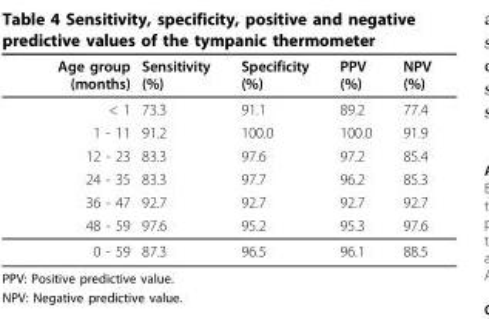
<table><thead><tr><td>Age group (months)</td><td>Sensitivity (%)</td><td>Specificity (%)</td><td>PPV (%)</td><td>NPV (%)</td></tr></thead><tbody><tr><td>&lt; 1</td><td>73.3</td><td>91.1</td><td>89.2</td><td>77.4</td></tr><tr><td>1 - 11</td><td>91.2</td><td>100.0</td><td>100.0</td><td>91.9</td></tr><tr><td>12 - 23</td><td>83.3</td><td>97.6</td><td>97.2</td><td>85.4</td></tr><tr><td>24 - 35</td><td>83.3</td><td>97.7</td><td>96.2</td><td>85.3</td></tr><tr><td>36 - 47</td><td>92.7</td><td>92.7</td><td>92.7</td><td>92.7</td></tr><tr><td>48 - 59</td><td>97.6</td><td>95.2</td><td>95.3</td><td>97.6</td></tr><tr><td>0 - 59</td><td>87.3</td><td>96.5</td><td>96.1</td><td>88.5</td></tr></tbody></table>